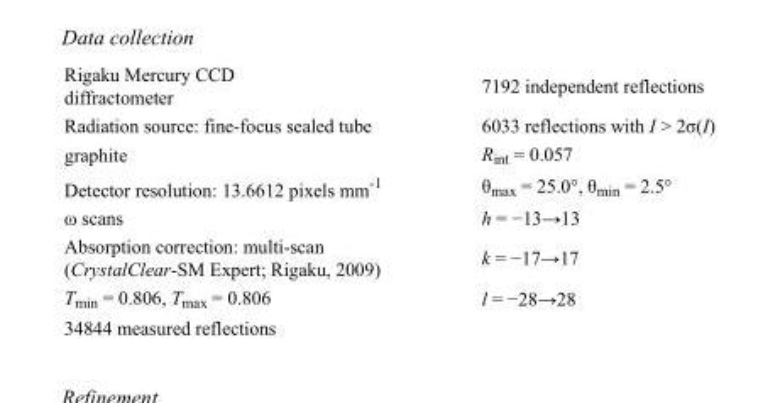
<table><tbody><tr><td>Rigaku Mercury CCD diffractometer</td><td>7192 independent reflections</td></tr><tr><td>Radiation source: fine-focus sealed tube</td><td>6033 reflections with I &gt; 2σ(I)</td></tr><tr><td>graphite</td><td>R<sub>int</sub> = 0.057</td></tr><tr><td>Detector resolution: 13.6612 pixels mm<sup>-1</sup></td><td>θ<sub>max</sub> = 25.0°, θ<sub>min</sub> = 2.5°</td></tr><tr><td>ω scans</td><td>h = −13→13</td></tr><tr><td>Absorption correction: multi-scan (CrystalClear-SM Expert; Rigaku, 2009)</td><td>k = −17→17</td></tr><tr><td>T<sub>min</sub> = 0.806, T<sub>max</sub> = 0.806</td><td>l = −28→28</td></tr><tr><td>34844 measured reflections</td><td></td></tr></tbody></table>